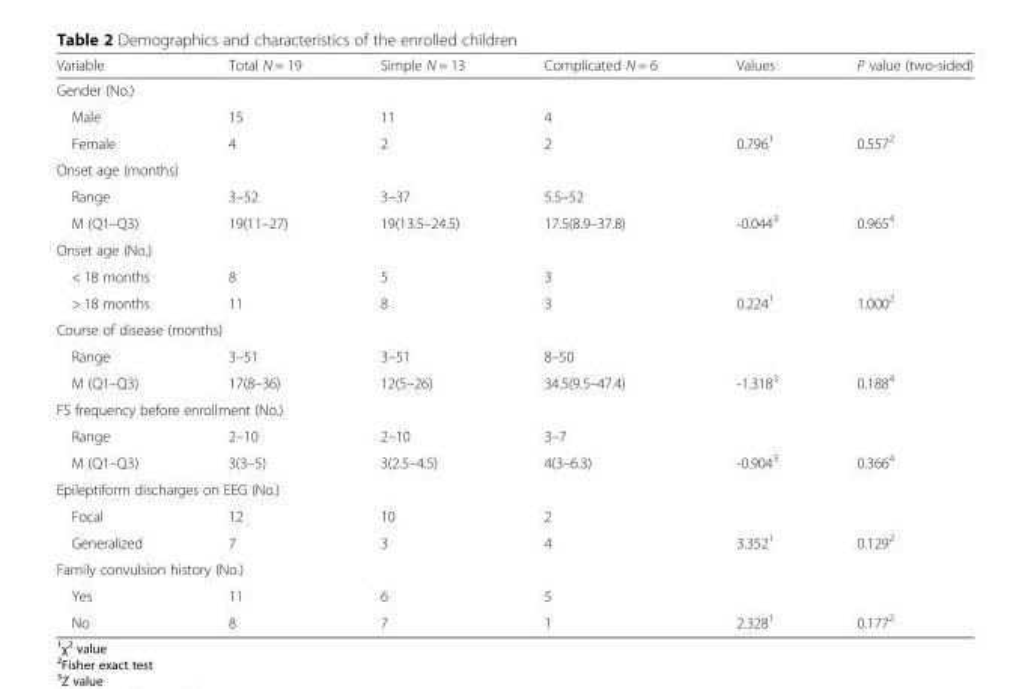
<table><thead><tr><td>Variable</td><td>Total N = 19</td><td>Simple N = 13</td><td>Complicated N = 6</td><td>Values</td><td>P value (two-sided)</td></tr></thead><tbody><tr><td colspan="6">Gender (No.)</td></tr><tr><td>Male</td><td>15</td><td>11</td><td>4</td><td></td><td></td></tr><tr><td>Female</td><td>4</td><td>2</td><td>2</td><td>0.796<sup>1</sup></td><td>0.557<sup>2</sup></td></tr><tr><td colspan="6">Onset age (months)</td></tr><tr><td>Range</td><td>3–52</td><td>3–37</td><td>5.5–52</td><td></td><td></td></tr><tr><td>M (Q1–Q3)</td><td>19(11–27)</td><td>19(13.5–24.5)</td><td>17.5(8.9–37.8)</td><td>-0.044<sup>3</sup></td><td>0.965<sup>4</sup></td></tr><tr><td colspan="6">Onset age (No.)</td></tr><tr><td>&lt; 18 months</td><td>8</td><td>5</td><td>3</td><td></td><td></td></tr><tr><td>&gt; 18 months</td><td>11</td><td>8</td><td>3</td><td>0.224<sup>1</sup></td><td>1.000<sup>2</sup></td></tr><tr><td colspan="6">Course of disease (months)</td></tr><tr><td>Range</td><td>3–51</td><td>3–51</td><td>8–50</td><td></td><td></td></tr><tr><td>M (Q1–Q3)</td><td>17(8–36)</td><td>12(5–26)</td><td>34.5(9.5–47.4)</td><td>-1.318<sup>3</sup></td><td>0.188<sup>4</sup></td></tr><tr><td colspan="6">FS frequency before enrollment (No.)</td></tr><tr><td>Range</td><td>2–10</td><td>2–10</td><td>3–7</td><td></td><td></td></tr><tr><td>M (Q1–Q3)</td><td>3(3–5)</td><td>3(2.5–4.5)</td><td>4(3–6.3)</td><td>-0.904<sup>3</sup></td><td>0.366<sup>4</sup></td></tr><tr><td colspan="6">Epileptiform discharges on EEG (No.)</td></tr><tr><td>Focal</td><td>12</td><td>10</td><td>2</td><td></td><td></td></tr><tr><td>Generalized</td><td>7</td><td>3</td><td>4</td><td>3.352<sup>1</sup></td><td>0.129<sup>2</sup></td></tr><tr><td colspan="6">Family convulsion history (No.)</td></tr><tr><td>Yes</td><td>11</td><td>6</td><td>5</td><td></td><td></td></tr><tr><td>No</td><td>8</td><td>7</td><td>1</td><td>2.328<sup>1</sup></td><td>0.177<sup>2</sup></td></tr></tbody></table>